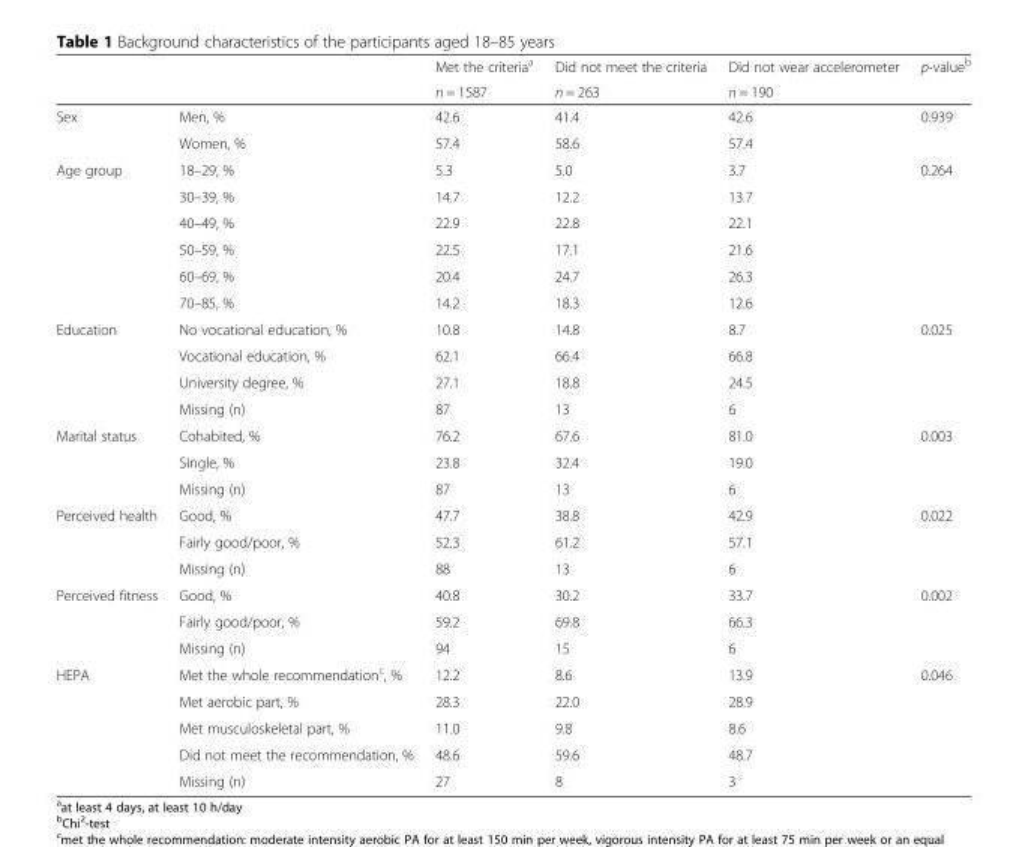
<table><thead><tr><td rowspan="2"></td><td rowspan="2"></td><td rowspan="2">Met the criteria<sup>a</sup> n = 1587</td><td rowspan="2">Did not meet the criteria n = 263</td><td rowspan="2">Did not wear accelerometer n = 190</td><td rowspan="2">p-value<sup>b</sup></td></tr><tr></tr></thead><tbody><tr><td rowspan="2">Sex</td><td>Men, %</td><td>42.6</td><td>41.4</td><td>42.6</td><td rowspan="2">0.939</td></tr><tr><td>Women, %</td><td>57.4</td><td>58.6</td><td>57.4</td></tr><tr><td rowspan="6">Age group</td><td>18–29, %</td><td>5.3</td><td>5.0</td><td>3.7</td><td rowspan="6">0.264</td></tr><tr><td>30–39, %</td><td>14.7</td><td>12.2</td><td>13.7</td></tr><tr><td>40–49, %</td><td>22.9</td><td>22.8</td><td>22.1</td></tr><tr><td>50–59, %</td><td>22.5</td><td>17.1</td><td>21.6</td></tr><tr><td>60–69, %</td><td>20.4</td><td>24.7</td><td>26.3</td></tr><tr><td>70–85, %</td><td>14.2</td><td>18.3</td><td>12.6</td></tr><tr><td rowspan="4">Education</td><td>No vocational education, %</td><td>10.8</td><td>14.8</td><td>8.7</td><td rowspan="4">0.025</td></tr><tr><td>Vocational education, %</td><td>62.1</td><td>66.4</td><td>66.8</td></tr><tr><td>University degree, %</td><td>27.1</td><td>18.8</td><td>24.5</td></tr><tr><td>Missing (n)</td><td>87</td><td>13</td><td>6</td></tr><tr><td rowspan="3">Marital status</td><td>Cohabited, %</td><td>76.2</td><td>67.6</td><td>81.0</td><td rowspan="3">0.003</td></tr><tr><td>Single, %</td><td>23.8</td><td>32.4</td><td>19.0</td></tr><tr><td>Missing (n)</td><td>87</td><td>13</td><td>6</td></tr><tr><td rowspan="3">Perceived health</td><td>Good, %</td><td>47.7</td><td>38.8</td><td>42.9</td><td rowspan="3">0.022</td></tr><tr><td>Fairly good/poor, %</td><td>52.3</td><td>61.2</td><td>57.1</td></tr><tr><td>Missing (n)</td><td>88</td><td>13</td><td>6</td></tr><tr><td rowspan="3">Perceived fitness</td><td>Good, %</td><td>40.8</td><td>30.2</td><td>33.7</td><td rowspan="3">0.002</td></tr><tr><td>Fairly good/poor, %</td><td>59.2</td><td>69.8</td><td>66.3</td></tr><tr><td>Missing (n)</td><td>94</td><td>15</td><td>6</td></tr><tr><td rowspan="5">HEPA</td><td>Met the whole recommendation<sup>c</sup>, %</td><td>12.2</td><td>8.6</td><td>13.9</td><td rowspan="5">0.046</td></tr><tr><td>Met aerobic part, %</td><td>28.3</td><td>22.0</td><td>28.9</td></tr><tr><td>Met musculoskeletal part, %</td><td>11.0</td><td>9.8</td><td>8.6</td></tr><tr><td>Did not meet the recommendation, %</td><td>48.6</td><td>59.6</td><td>48.7</td></tr><tr><td>Missing (n)</td><td>27</td><td>8</td><td>3</td></tr></tbody></table>